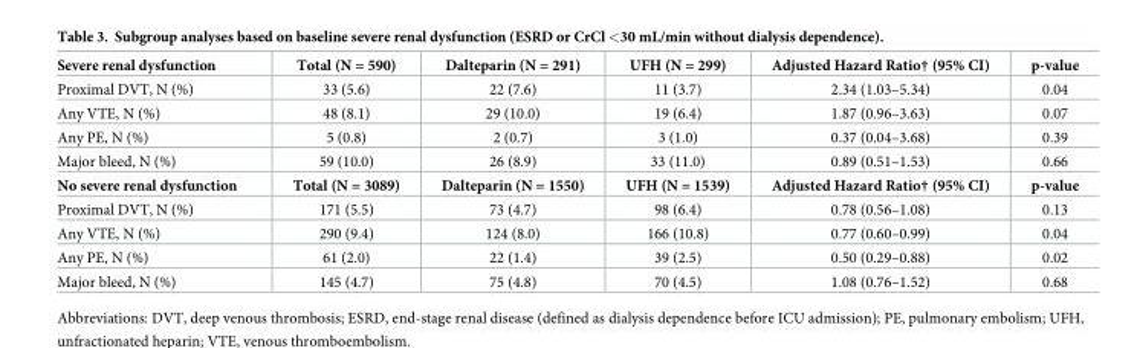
<table><tbody><tr><td>Severe renal dysfunction</td><td>Total (N = 590)</td><td>Dalteparin (N = 291)</td><td>UFH (N = 299)</td><td>Adjusted Hazard Ratio† (95% CI)</td><td>p-value</td></tr><tr><td>Proximal DVT, N (%)</td><td>33 (5.6)</td><td>22 (7.6)</td><td>11 (3.7)</td><td>2.34 (1.03–5.34)</td><td>0.04</td></tr><tr><td>Any VTE, N (%)</td><td>48 (8.1)</td><td>29 (10.0)</td><td>19 (6.4)</td><td>1.87 (0.96–3.63)</td><td>0.07</td></tr><tr><td>Any PE, N (%)</td><td>5 (0.8)</td><td>2 (0.7)</td><td>3 (1.0)</td><td>0.37 (0.04–3.68)</td><td>0.39</td></tr><tr><td>Major bleed, N (%)</td><td>59 (10.0)</td><td>26 (8.9)</td><td>33 (11.0)</td><td>0.89 (0.51–1.53)</td><td>0.66</td></tr><tr><td>No severe renal dysfunction</td><td>Total (N = 3089)</td><td>Dalteparin (N = 1550)</td><td>UFH (N = 1539)</td><td>Adjusted Hazard Ratio† (95% CI)</td><td>p-value</td></tr><tr><td>Proximal DVT, N (%)</td><td>171 (5.5)</td><td>73 (4.7)</td><td>98 (6.4)</td><td>0.78 (0.56–1.08)</td><td>0.13</td></tr><tr><td>Any VTE, N (%)</td><td>290 (9.4)</td><td>124 (8.0)</td><td>166 (10.8)</td><td>0.77 (0.60–0.99)</td><td>0.04</td></tr><tr><td>Any PE, N (%)</td><td>61 (2.0)</td><td>22 (1.4)</td><td>39 (2.5)</td><td>0.50 (0.29–0.88)</td><td>0.02</td></tr><tr><td>Major bleed, N (%)</td><td>145 (4.7)</td><td>75 (4.8)</td><td>70 (4.5)</td><td>1.08 (0.76–1.52)</td><td>0.68</td></tr></tbody></table>